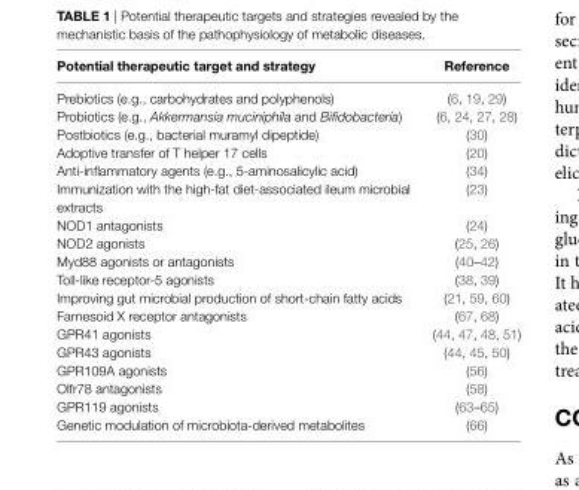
<table><thead><tr><td>Potential therapeutic target and strategy</td><td>Reference</td></tr></thead><tbody><tr><td>Prebiotics (e.g., carbohydrates and polyphenols)</td><td>(6, 19, 29)</td></tr><tr><td>Probiotics (e.g., Akkermansia muciniphila and Bifidobacteria)</td><td>(6, 24, 27, 28)</td></tr><tr><td>Postbiotics (e.g., bacterial muramyl dipeptide)</td><td>(30)</td></tr><tr><td>Adoptive transfer of T helper 17 cells</td><td>(20)</td></tr><tr><td>Anti-inflammatory agents (e.g., 5-aminosalicylic acid)</td><td>(34)</td></tr><tr><td>Immunization with the high-fat diet-associated ileum microbial extracts</td><td>(23)</td></tr><tr><td>NOD1 antagonists</td><td>(24)</td></tr><tr><td>NOD2 agonists</td><td>(25, 26)</td></tr><tr><td>Myd88 agonists or antagonists</td><td>(40–42)</td></tr><tr><td>Toll-like receptor-5 agonists</td><td>(38, 39)</td></tr><tr><td>Improving gut microbial production of short-chain fatty acids</td><td>(21, 59, 60)</td></tr><tr><td>Farnesoid X receptor antagonists</td><td>(67, 68)</td></tr><tr><td>GPR41 agonists</td><td>(44, 47, 48, 51)</td></tr><tr><td>GPR43 agonists</td><td>(44, 45, 50)</td></tr><tr><td>GPR109A agonists</td><td>(56)</td></tr><tr><td>Olfr78 antagonists</td><td>(58)</td></tr><tr><td>GPR119 agonists</td><td>(63–65)</td></tr><tr><td>Genetic modulation of microbiota-derived metabolites</td><td>(66)</td></tr></tbody></table>